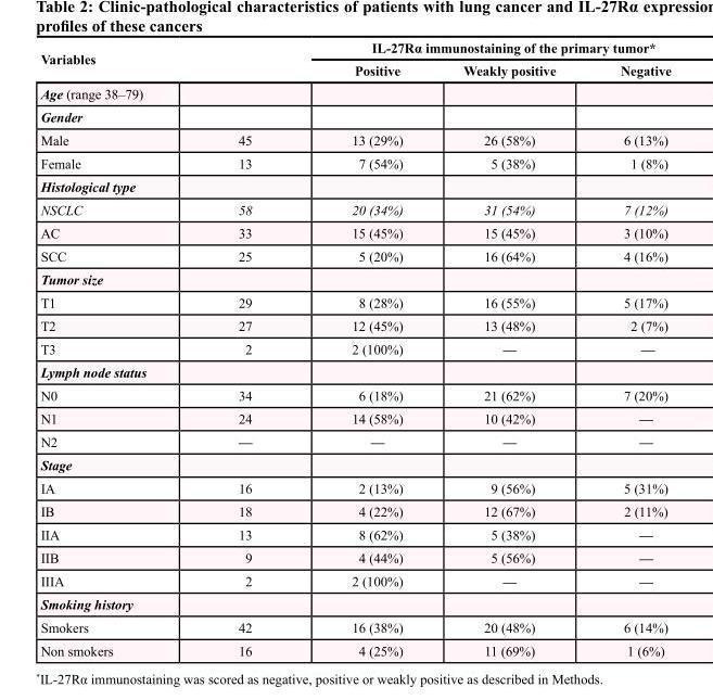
<table><thead><tr><td rowspan="2" colspan="2">Variables</td><td colspan="3">IL-27Rα immunostaining of the primary tumor*</td></tr><tr><td rowspan="2">Positive</td><td rowspan="2">Weakly positive</td><td rowspan="2">Negative</td></tr><tr><td>Age (range 38–79)</td><td></td></tr></thead><tbody><tr><td colspan="5">Gender</td></tr><tr><td>Male</td><td>45</td><td>13 (29%)</td><td>26 (58%)</td><td>6 (13%)</td></tr><tr><td>Female</td><td>13</td><td>7 (54%)</td><td>5 (38%)</td><td>1 (8%)</td></tr><tr><td colspan="5">Histological type</td></tr><tr><td>NSCLC</td><td>58</td><td>20 (34%)</td><td>31 (54%)</td><td>7 (12%)</td></tr><tr><td>AC</td><td>33</td><td>15 (45%)</td><td>15 (45%)</td><td>3 (10%)</td></tr><tr><td>SCC</td><td>25</td><td>5 (20%)</td><td>16 (64%)</td><td>4 (16%)</td></tr><tr><td colspan="5">Tumor size</td></tr><tr><td>T1</td><td>29</td><td>8 (28%)</td><td>16 (55%)</td><td>5 (17%)</td></tr><tr><td>T2</td><td>27</td><td>12 (45%)</td><td>13 (48%)</td><td>2 (7%)</td></tr><tr><td>T3</td><td>2</td><td>2 (100%)</td><td>—</td><td>—</td></tr><tr><td colspan="5">Lymph node status</td></tr><tr><td>N0</td><td>34</td><td>6 (18%)</td><td>21 (62%)</td><td>7 (20%)</td></tr><tr><td>N1</td><td>24</td><td>14 (58%)</td><td>10 (42%)</td><td>—</td></tr><tr><td>N2</td><td>—</td><td>—</td><td>—</td><td>—</td></tr><tr><td colspan="5">Stage</td></tr><tr><td>IA</td><td>16</td><td>2 (13%)</td><td>9 (56%)</td><td>5 (31%)</td></tr><tr><td>IB</td><td>18</td><td>4 (22%)</td><td>12 (67%)</td><td>2 (11%)</td></tr><tr><td>IIA</td><td>13</td><td>8 (62%)</td><td>5 (38%)</td><td>—</td></tr><tr><td>IIB</td><td>9</td><td>4 (44%)</td><td>5 (56%)</td><td>—</td></tr><tr><td>IIIA</td><td>2</td><td>2 (100%)</td><td>—</td><td>—</td></tr><tr><td colspan="5">Smoking history</td></tr><tr><td>Smokers</td><td>42</td><td>16 (38%)</td><td>20 (48%)</td><td>6 (14%)</td></tr><tr><td>Non smokers</td><td>16</td><td>4 (25%)</td><td>11 (69%)</td><td>1 (6%)</td></tr></tbody></table>